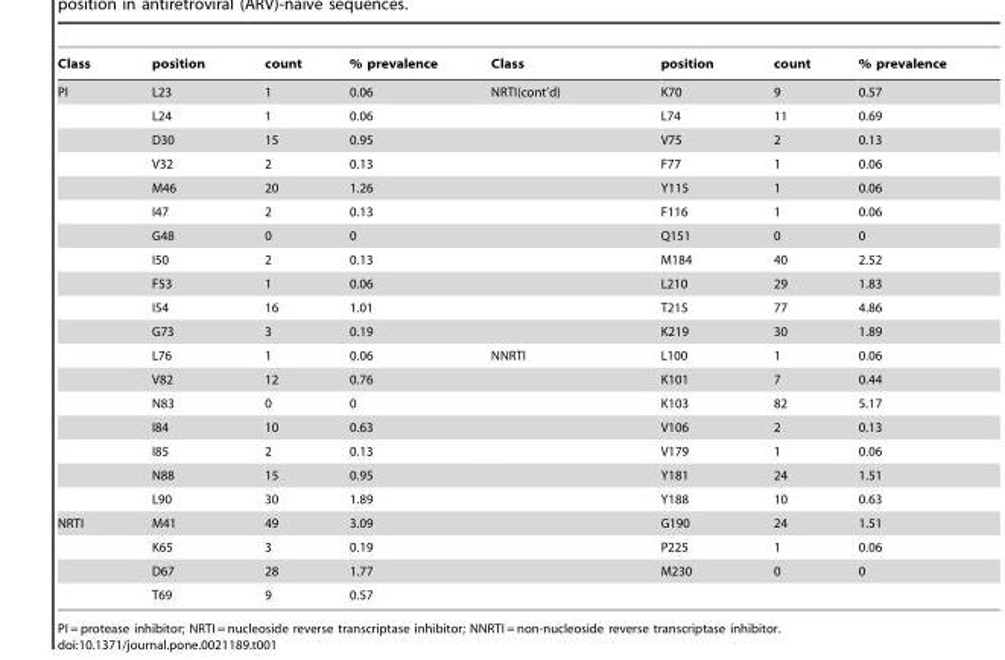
<table><thead><tr><td>Class</td><td>position</td><td>count</td><td>% prevalence</td><td>Class</td><td>position</td><td>count</td><td>% prevalence</td></tr></thead><tbody><tr><td rowspan="18">PI</td><td>L23</td><td>1</td><td>0.06</td><td>NRTI(cont’d)</td><td>K70</td><td>9</td><td>0.57</td></tr><tr><td>L24</td><td>1</td><td>0.06</td><td></td><td>L74</td><td>11</td><td>0.69</td></tr><tr><td>D30</td><td>15</td><td>0.95</td><td></td><td>V75</td><td>2</td><td>0.13</td></tr><tr><td>V32</td><td>2</td><td>0.13</td><td></td><td>F77</td><td>1</td><td>0.06</td></tr><tr><td>M46</td><td>20</td><td>1.26</td><td></td><td>Y115</td><td>1</td><td>0.06</td></tr><tr><td>I47</td><td>2</td><td>0.13</td><td></td><td>F116</td><td>1</td><td>0.06</td></tr><tr><td>G48</td><td>0</td><td>0</td><td></td><td>Q151</td><td>0</td><td>0</td></tr><tr><td>I50</td><td>2</td><td>0.13</td><td></td><td>M184</td><td>40</td><td>2.52</td></tr><tr><td>F53</td><td>1</td><td>0.06</td><td></td><td>L210</td><td>29</td><td>1.83</td></tr><tr><td>I54</td><td>16</td><td>1.01</td><td></td><td>T215</td><td>77</td><td>4.86</td></tr><tr><td>G73</td><td>3</td><td>0.19</td><td></td><td>K219</td><td>30</td><td>1.89</td></tr><tr><td>L76</td><td>1</td><td>0.06</td><td>NNRTI</td><td>L100</td><td>1</td><td>0.06</td></tr><tr><td>V82</td><td>12</td><td>0.76</td><td></td><td>K101</td><td>7</td><td>0.44</td></tr><tr><td>N83</td><td>0</td><td>0</td><td></td><td>K103</td><td>82</td><td>5.17</td></tr><tr><td>I84</td><td>10</td><td>0.63</td><td></td><td>V106</td><td>2</td><td>0.13</td></tr><tr><td>I85</td><td>2</td><td>0.13</td><td></td><td>V179</td><td>1</td><td>0.06</td></tr><tr><td>N88</td><td>15</td><td>0.95</td><td></td><td>Y181</td><td>24</td><td>1.51</td></tr><tr><td>L90</td><td>30</td><td>1.89</td><td></td><td>Y188</td><td>10</td><td>0.63</td></tr><tr><td rowspan="4">NRTI</td><td>M41</td><td>49</td><td>3.09</td><td></td><td>G190</td><td>24</td><td>1.51</td></tr><tr><td>K65</td><td>3</td><td>0.19</td><td></td><td>P225</td><td>1</td><td>0.06</td></tr><tr><td>D67</td><td>28</td><td>1.77</td><td></td><td>M230</td><td>0</td><td>0</td></tr><tr><td>T69</td><td>9</td><td>0.57</td><td></td><td></td><td></td><td></td></tr></tbody></table>